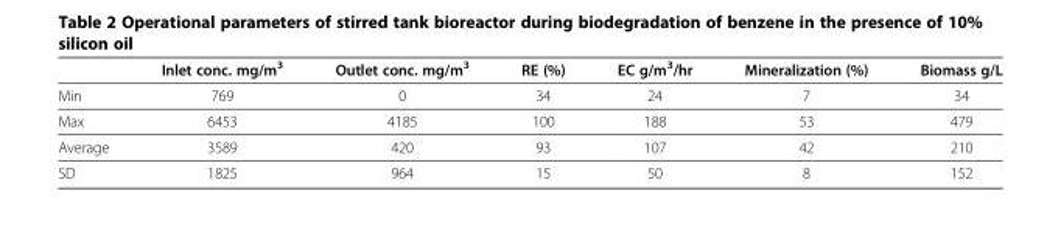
<table><thead><tr><td></td><td>Inlet conc. mg/m<sup>3</sup></td><td>Outlet conc. mg/m<sup>3</sup></td><td>RE (%)</td><td>EC g/m<sup>3</sup>/hr</td><td>Mineralization (%)</td><td>Biomass g/L</td></tr></thead><tbody><tr><td>Min</td><td>769</td><td>0</td><td>34</td><td>24</td><td>7</td><td>34</td></tr><tr><td>Max</td><td>6453</td><td>4185</td><td>100</td><td>188</td><td>53</td><td>479</td></tr><tr><td>Average</td><td>3589</td><td>420</td><td>93</td><td>107</td><td>42</td><td>210</td></tr><tr><td>SD</td><td>1825</td><td>964</td><td>15</td><td>50</td><td>8</td><td>152</td></tr></tbody></table>